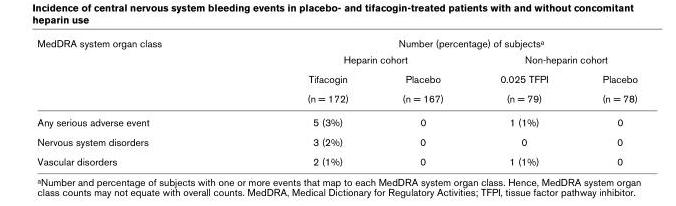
<table><thead><tr><td rowspan="4">MedDRA system organ class</td><td colspan="4">Number (percentage) of subjects<sup>a</sup></td></tr><tr><td colspan="2">Heparin cohort</td><td colspan="2">Non-heparin cohort</td></tr><tr><td rowspan="2">Tifacogin (n = 172)</td><td rowspan="2">Placebo (n = 167)</td><td rowspan="2">0.025 TFPI (n = 79)</td><td rowspan="2">Placebo (n = 78)</td></tr><tr></tr></thead><tbody><tr><td>Any serious adverse event</td><td>5 (3%)</td><td>0</td><td>1 (1%)</td><td>0</td></tr><tr><td>Nervous system disorders</td><td>3 (2%)</td><td>0</td><td>0</td><td>0</td></tr><tr><td>Vascular disorders</td><td>2 (1%)</td><td>0</td><td>1 (1%)</td><td>0</td></tr></tbody></table>